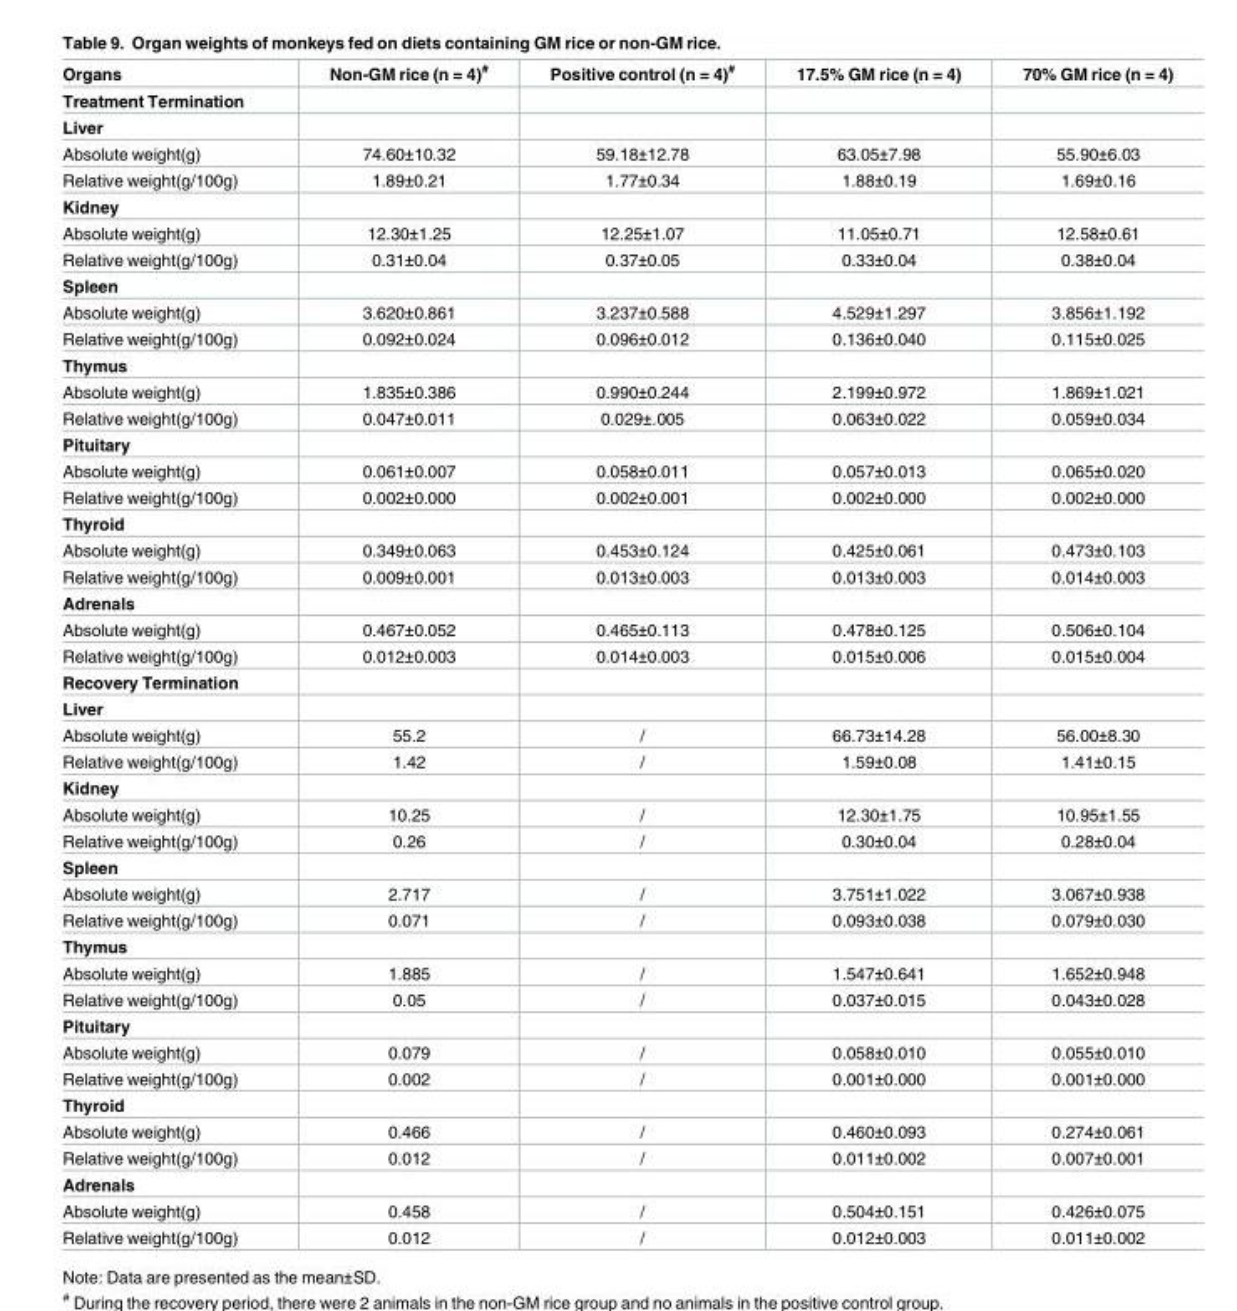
<table><thead><tr><td>Organs</td><td>Non-GM rice (n = 4)<sup>#</sup></td><td>Positive control (n = 4)<sup>#</sup></td><td>17.5% GM rice (n = 4)</td><td>70% GM rice (n = 4)</td></tr></thead><tbody><tr><td colspan="5">Treatment Termination</td></tr><tr><td colspan="5">Liver</td></tr><tr><td>Absolute weight(g)</td><td>74.60±10.32</td><td>59.18±12.78</td><td>63.05±7.98</td><td>55.90±6.03</td></tr><tr><td>Relative weight(g/100g)</td><td>1.89±0.21</td><td>1.77±0.34</td><td>1.88±0.19</td><td>1.69±0.16</td></tr><tr><td colspan="5">Kidney</td></tr><tr><td>Absolute weight(g)</td><td>12.30±1.25</td><td>12.25±1.07</td><td>11.05±0.71</td><td>12.58±0.61</td></tr><tr><td>Relative weight(g/100g)</td><td>0.31±0.04</td><td>0.37±0.05</td><td>0.33±0.04</td><td>0.38±0.04</td></tr><tr><td colspan="5">Spleen</td></tr><tr><td>Absolute weight(g)</td><td>3.620±0.861</td><td>3.237±0.588</td><td>4.529±1.297</td><td>3.856±1.192</td></tr><tr><td>Relative weight(g/100g)</td><td>0.092±0.024</td><td>0.096±0.012</td><td>0.136±0.040</td><td>0.115±0.025</td></tr><tr><td colspan="5">Thymus</td></tr><tr><td>Absolute weight(g)</td><td>1.835±0.386</td><td>0.990±0.244</td><td>2.199±0.972</td><td>1.869±1.021</td></tr><tr><td>Relative weight(g/100g)</td><td>0.047±0.011</td><td>0.029±.005</td><td>0.063±0.022</td><td>0.059±0.034</td></tr><tr><td colspan="5">Pituitary</td></tr><tr><td>Absolute weight(g)</td><td>0.061±0.007</td><td>0.058±0.011</td><td>0.057±0.013</td><td>0.065±0.020</td></tr><tr><td>Relative weight(g/100g)</td><td>0.002±0.000</td><td>0.002±0.001</td><td>0.002±0.000</td><td>0.002±0.000</td></tr><tr><td colspan="5">Thyroid</td></tr><tr><td>Absolute weight(g)</td><td>0.349±0.063</td><td>0.453±0.124</td><td>0.425±0.061</td><td>0.473±0.103</td></tr><tr><td>Relative weight(g/100g)</td><td>0.009±0.001</td><td>0.013±0.003</td><td>0.013±0.003</td><td>0.014±0.003</td></tr><tr><td colspan="5">Adrenals</td></tr><tr><td>Absolute weight(g)</td><td>0.467±0.052</td><td>0.465±0.113</td><td>0.478±0.125</td><td>0.506±0.104</td></tr><tr><td>Relative weight(g/100g)</td><td>0.012±0.003</td><td>0.014±0.003</td><td>0.015±0.006</td><td>0.015±0.004</td></tr><tr><td colspan="5">Recovery Termination</td></tr><tr><td colspan="5">Liver</td></tr><tr><td>Absolute weight(g)</td><td>55.2</td><td>/</td><td>66.73±14.28</td><td>56.00±8.30</td></tr><tr><td>Relative weight(g/100g)</td><td>1.42</td><td>/</td><td>1.59±0.08</td><td>1.41±0.15</td></tr><tr><td colspan="5">Kidney</td></tr><tr><td>Absolute weight(g)</td><td>10.25</td><td>/</td><td>12.30±1.75</td><td>10.95±1.55</td></tr><tr><td>Relative weight(g/100g)</td><td>0.26</td><td>/</td><td>0.30±0.04</td><td>0.28±0.04</td></tr><tr><td colspan="5">Spleen</td></tr><tr><td>Absolute weight(g)</td><td>2.717</td><td>/</td><td>3.751±1.022</td><td>3.067±0.938</td></tr><tr><td>Relative weight(g/100g)</td><td>0.071</td><td>/</td><td>0.093±0.038</td><td>0.079±0.030</td></tr><tr><td colspan="5">Thymus</td></tr><tr><td>Absolute weight(g)</td><td>1.885</td><td>/</td><td>1.547±0.641</td><td>1.652±0.948</td></tr><tr><td>Relative weight(g/100g)</td><td>0.05</td><td>/</td><td>0.037±0.015</td><td>0.043±0.028</td></tr><tr><td colspan="5">Pituitary</td></tr><tr><td>Absolute weight(g)</td><td>0.079</td><td>/</td><td>0.058±0.010</td><td>0.055±0.010</td></tr><tr><td>Relative weight(g/100g)</td><td>0.002</td><td>/</td><td>0.001±0.000</td><td>0.001±0.000</td></tr><tr><td colspan="5">Thyroid</td></tr><tr><td>Absolute weight(g)</td><td>0.466</td><td>/</td><td>0.460±0.093</td><td>0.274±0.061</td></tr><tr><td>Relative weight(g/100g)</td><td>0.012</td><td>/</td><td>0.011±0.002</td><td>0.007±0.001</td></tr><tr><td colspan="5">Adrenals</td></tr><tr><td>Absolute weight(g)</td><td>0.458</td><td>/</td><td>0.504±0.151</td><td>0.426±0.075</td></tr><tr><td>Relative weight(g/100g)</td><td>0.012</td><td>/</td><td>0.012±0.003</td><td>0.011±0.002</td></tr></tbody></table>